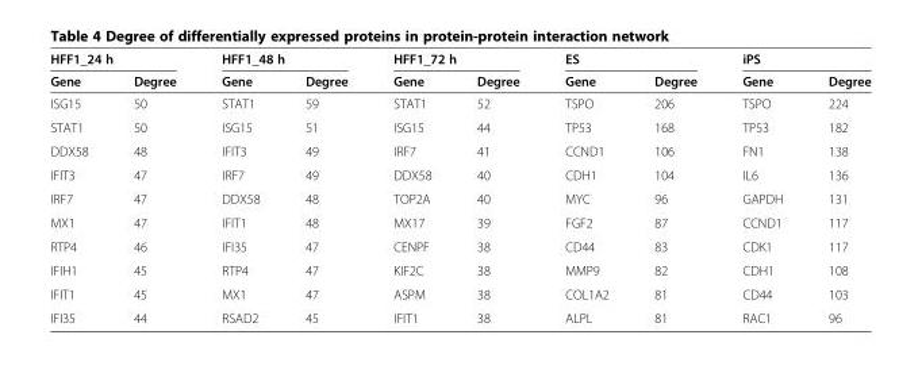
<table><thead><tr><td colspan="2">HFF1_24 h</td><td colspan="2">HFF1_48 h</td><td colspan="2">HFF1_72 h</td><td colspan="2">ES</td><td colspan="2">iPS</td></tr><tr><td>Gene</td><td>Degree</td><td>Gene</td><td>Degree</td><td>Gene</td><td>Degree</td><td>Gene</td><td>Degree</td><td>Gene</td><td>Degree</td></tr></thead><tbody><tr><td>ISG15</td><td>50</td><td>STAT1</td><td>59</td><td>STAT1</td><td>52</td><td>TSPO</td><td>206</td><td>TSPO</td><td>224</td></tr><tr><td>STAT1</td><td>50</td><td>ISG15</td><td>51</td><td>ISG15</td><td>44</td><td>TP53</td><td>168</td><td>TP53</td><td>182</td></tr><tr><td>DDX58</td><td>48</td><td>IFIT3</td><td>49</td><td>IRF7</td><td>41</td><td>CCND1</td><td>106</td><td>FN1</td><td>138</td></tr><tr><td>IFIT3</td><td>47</td><td>IRF7</td><td>49</td><td>DDX58</td><td>40</td><td>CDH1</td><td>104</td><td>IL6</td><td>136</td></tr><tr><td>IRF7</td><td>47</td><td>DDX58</td><td>48</td><td>TOP2A</td><td>40</td><td>MYC</td><td>96</td><td>GAPDH</td><td>131</td></tr><tr><td>MX1</td><td>47</td><td>IFIT1</td><td>48</td><td>MX17</td><td>39</td><td>FGF2</td><td>87</td><td>CCND1</td><td>117</td></tr><tr><td>RTP4</td><td>46</td><td>IFI35</td><td>47</td><td>CENPF</td><td>38</td><td>CD44</td><td>83</td><td>CDK1</td><td>117</td></tr><tr><td>IFIH1</td><td>45</td><td>RTP4</td><td>47</td><td>KIF2C</td><td>38</td><td>MMP9</td><td>82</td><td>CDH1</td><td>108</td></tr><tr><td>IFIT1</td><td>45</td><td>MX1</td><td>47</td><td>ASPM</td><td>38</td><td>COL1A2</td><td>81</td><td>CD44</td><td>103</td></tr><tr><td>IFI35</td><td>44</td><td>RSAD2</td><td>45</td><td>IFIT1</td><td>38</td><td>ALPL</td><td>81</td><td>RAC1</td><td>96</td></tr></tbody></table>